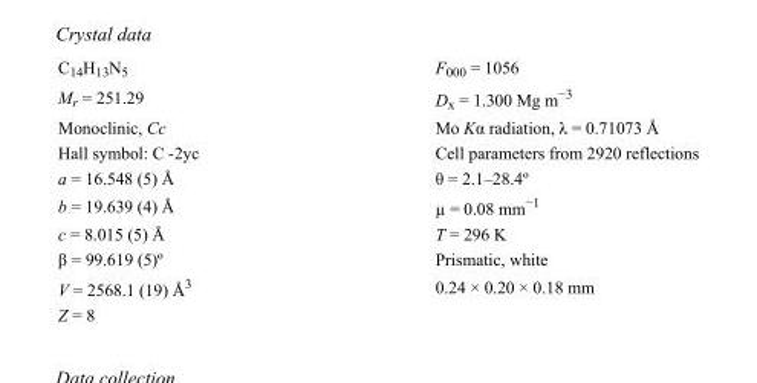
<table><tbody><tr><td>C<sub>14</sub>H<sub>13</sub>N<sub>5</sub></td><td>F000 = 1056</td></tr><tr><td>M<sub>r</sub> = 251.29</td><td>D<sub>x</sub> = 1.300 Mg m<sup>−3</sup></td></tr><tr><td>Monoclinic, Cc</td><td>Mo Kα radiation, λ = 0.71073 Å</td></tr><tr><td>Hall symbol: C -2yc</td><td>Cell parameters from 2920 reflections</td></tr><tr><td>a = 16.548 (5) Å</td><td>θ = 2.1–28.4º</td></tr><tr><td>b = 19.639 (4) Å</td><td>µ = 0.08 mm<sup>−1</sup></td></tr><tr><td>c = 8.015 (5) Å</td><td>T = 296 K</td></tr><tr><td>β = 99.619 (5)º</td><td>Prismatic, white</td></tr><tr><td>V = 2568.1 (19) Å<sup>3</sup></td><td>0.24 × 0.20 × 0.18 mm</td></tr><tr><td>Z = 8</td><td></td></tr></tbody></table>